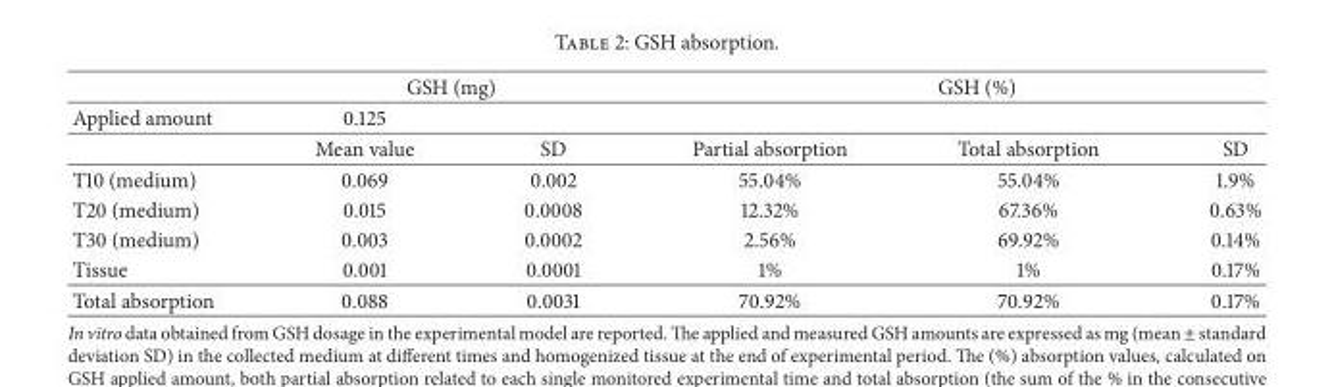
<table><thead><tr><td rowspan="2">Applied amount</td><td colspan="2">GSH (mg)</td><td colspan="3">GSH (%)</td></tr><tr><td>0.125</td><td></td><td></td><td></td><td></td></tr></thead><tbody><tr><td></td><td>Mean value</td><td>SD</td><td>Partial absorption</td><td>Total absorption</td><td>SD</td></tr><tr><td>T10 (medium)</td><td>0.069</td><td>0.002</td><td>55.04%</td><td>55.04%</td><td>1.9%</td></tr><tr><td>T20 (medium)</td><td>0.015</td><td>0.0008</td><td>12.32%</td><td>67.36%</td><td>0.63%</td></tr><tr><td>T30 (medium)</td><td>0.003</td><td>0.0002</td><td>2.56%</td><td>69.92%</td><td>0.14%</td></tr><tr><td>Tissue</td><td>0.001</td><td>0.0001</td><td>1%</td><td>1%</td><td>0.17%</td></tr><tr><td>Total absorption</td><td>0.088</td><td>0.0031</td><td>70.92%</td><td>70.92%</td><td>0.17%</td></tr></tbody></table>